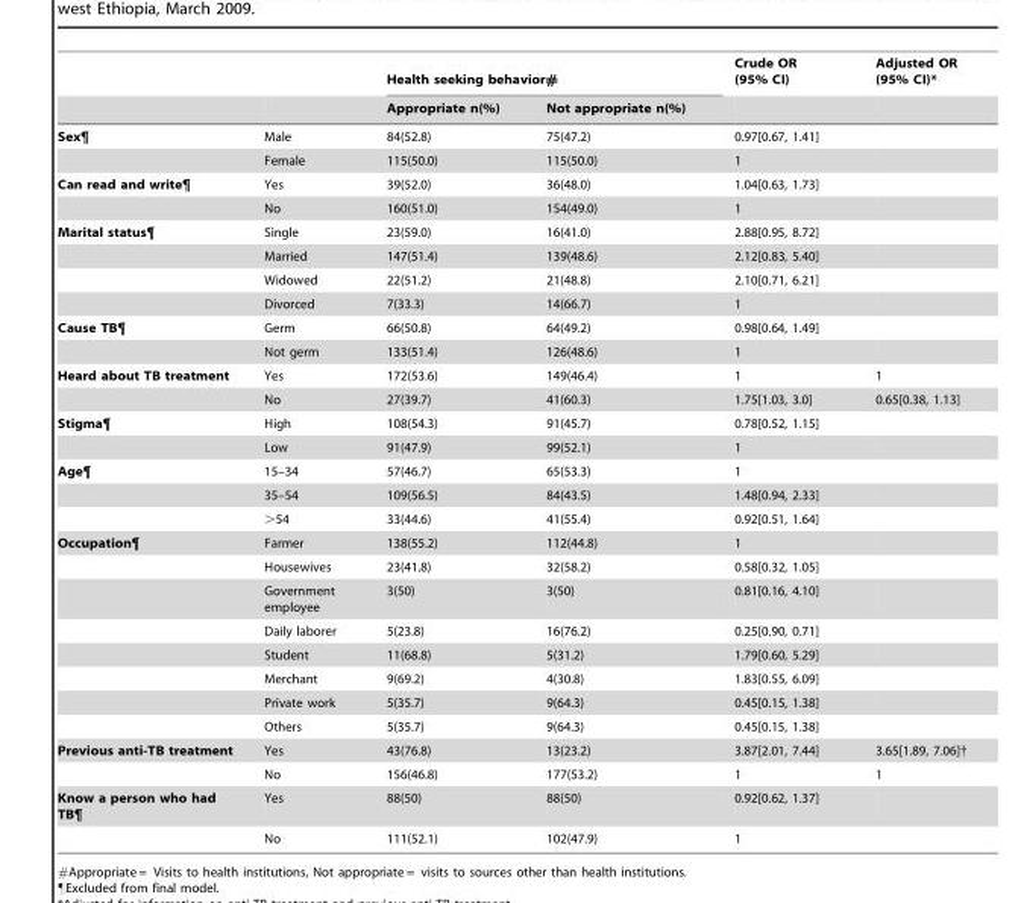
<table><thead><tr><td rowspan="2"></td><td rowspan="2"></td><td colspan="2">Health seeking behavior#</td><td rowspan="2">Crude OR (95% CI)</td><td rowspan="2">Adjusted OR (95% CI)*</td></tr><tr><td>Appropriate n(%)</td><td>Not appropriate n(%)</td></tr></thead><tbody><tr><td rowspan="2">Sex¶</td><td>Male</td><td>84(52.8)</td><td>75(47.2)</td><td>0.97[0.67, 1.41]</td><td></td></tr><tr><td>Female</td><td>115(50.0)</td><td>115(50.0)</td><td>1</td><td></td></tr><tr><td rowspan="2">Can read and write¶</td><td>Yes</td><td>39(52.0)</td><td>36(48.0)</td><td>1.04[0.63, 1.73]</td><td></td></tr><tr><td>No</td><td>160(51.0)</td><td>154(49.0)</td><td>1</td><td></td></tr><tr><td rowspan="4">Marital status¶</td><td>Single</td><td>23(59.0)</td><td>16(41.0)</td><td>2.88[0.95, 8.72]</td><td></td></tr><tr><td>Married</td><td>147(51.4)</td><td>139(48.6)</td><td>2.12[0.83, 5.40]</td><td></td></tr><tr><td>Widowed</td><td>22(51.2)</td><td>21(48.8)</td><td>2.10[0.71, 6.21]</td><td></td></tr><tr><td>Divorced</td><td>7(33.3)</td><td>14(66.7)</td><td>1</td><td></td></tr><tr><td rowspan="2">Cause TB¶</td><td>Germ</td><td>66(50.8)</td><td>64(49.2)</td><td>0.98[0.64, 1.49]</td><td></td></tr><tr><td>Not germ</td><td>133(51.4)</td><td>126(48.6)</td><td>1</td><td></td></tr><tr><td rowspan="2">Heard about TB treatment</td><td>Yes</td><td>172(53.6)</td><td>149(46.4)</td><td>1</td><td>1</td></tr><tr><td>No</td><td>27(39.7)</td><td>41(60.3)</td><td>1.75[1.03, 3.0]</td><td>0.65[0.38, 1.13]</td></tr><tr><td rowspan="2">Stigma¶</td><td>High</td><td>108(54.3)</td><td>91(45.7)</td><td>0.78[0.52, 1.15]</td><td></td></tr><tr><td>Low</td><td>91(47.9)</td><td>99(52.1)</td><td>1</td><td></td></tr><tr><td rowspan="3">Age¶</td><td>15–34</td><td>57(46.7)</td><td>65(53.3)</td><td>1</td><td></td></tr><tr><td>35–54</td><td>109(56.5)</td><td>84(43.5)</td><td>1.48[0.94, 2.33]</td><td></td></tr><tr><td>&gt;54</td><td>33(44.6)</td><td>41(55.4)</td><td>0.92[0.51, 1.64]</td><td></td></tr><tr><td rowspan="8">Occupation¶</td><td>Farmer</td><td>138(55.2)</td><td>112(44.8)</td><td>1</td><td></td></tr><tr><td>Housewives</td><td>23(41.8)</td><td>32(58.2)</td><td>0.58[0.32, 1.05]</td><td></td></tr><tr><td>Government employee</td><td>3(50)</td><td>3(50)</td><td>0.81[0.16, 4.10]</td><td></td></tr><tr><td>Daily laborer</td><td>5(23.8)</td><td>16(76.2)</td><td>0.25[0.90, 0.71]</td><td></td></tr><tr><td>Student</td><td>11(68.8)</td><td>5(31.2)</td><td>1.79[0.60, 5.29]</td><td></td></tr><tr><td>Merchant</td><td>9(69.2)</td><td>4(30.8)</td><td>1.83[0.55, 6.09]</td><td></td></tr><tr><td>Private work</td><td>5(35.7)</td><td>9(64.3)</td><td>0.45[0.15, 1.38]</td><td></td></tr><tr><td>Others</td><td>5(35.7)</td><td>9(64.3)</td><td>0.45[0.15, 1.38]</td><td></td></tr><tr><td rowspan="2">Previous anti-TB treatment</td><td>Yes</td><td>43(76.8)</td><td>13(23.2)</td><td>3.87[2.01, 7.44]</td><td>3.65[1.89, 7.06]†</td></tr><tr><td>No</td><td>156(46.8)</td><td>177(53.2)</td><td>1</td><td>1</td></tr><tr><td rowspan="2">Know a person who had TB¶</td><td>Yes</td><td>88(50)</td><td>88(50)</td><td>0.92[0.62, 1.37]</td><td></td></tr><tr><td>No</td><td>111(52.1)</td><td>102(47.9)</td><td>1</td><td></td></tr></tbody></table>